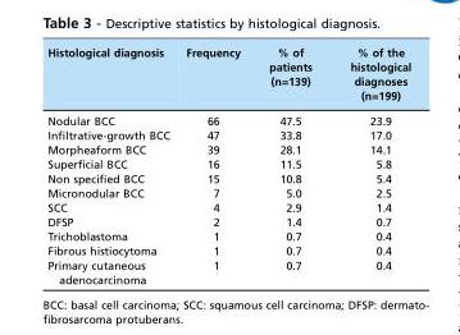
<table><thead><tr><td>Histological diagnosis</td><td>Frequency</td><td>% of patients (n=139)</td><td>% of the histological diagnoses (n=199)</td></tr></thead><tbody><tr><td>Nodular BCC</td><td>66</td><td>47.5</td><td>23.9</td></tr><tr><td>Infiltrative-growth BCC</td><td>47</td><td>33.8</td><td>17.0</td></tr><tr><td>Morpheaform BCC</td><td>39</td><td>28.1</td><td>14.1</td></tr><tr><td>Superficial BCC</td><td>16</td><td>11.5</td><td>5.8</td></tr><tr><td>Non specified BCC</td><td>15</td><td>10.8</td><td>5.4</td></tr><tr><td>Micronodular BCC</td><td>7</td><td>5.0</td><td>2.5</td></tr><tr><td>SCC</td><td>4</td><td>2.9</td><td>1.4</td></tr><tr><td>DFSP</td><td>2</td><td>1.4</td><td>0.7</td></tr><tr><td>Trichoblastoma</td><td>1</td><td>0.7</td><td>0.4</td></tr><tr><td>Fibrous histiocytoma</td><td>1</td><td>0.7</td><td>0.4</td></tr><tr><td>Primary cutaneous adenocarcinoma</td><td>1</td><td>0.7</td><td>0.4</td></tr></tbody></table>